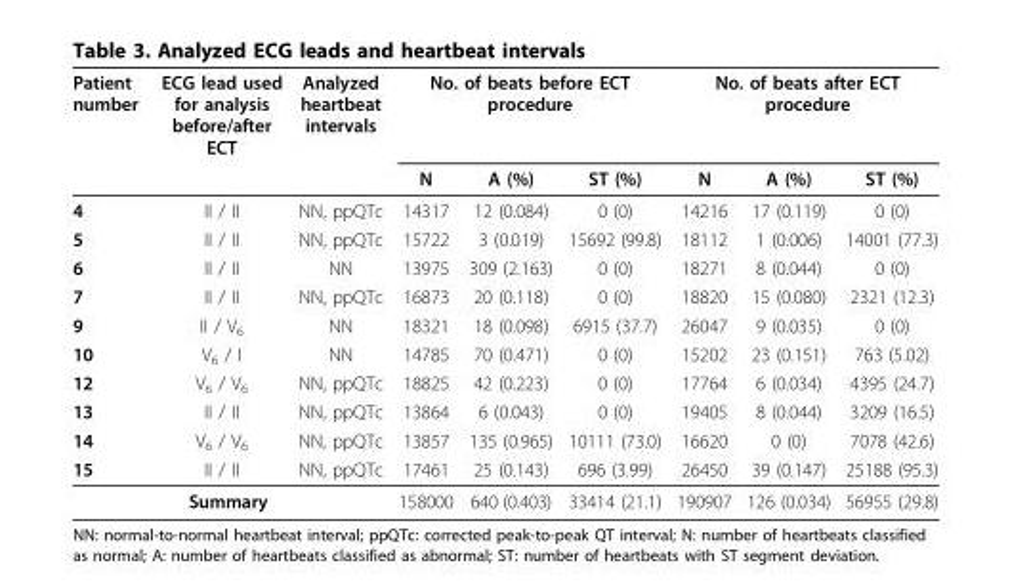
<table><thead><tr><td rowspan="2">Patient number</td><td rowspan="2">ECG lead used for analysis before/after ECT</td><td rowspan="2">Analyzed heartbeat intervals</td><td colspan="3">No. of beats before ECT procedure</td><td colspan="3">No. of beats after ECT procedure</td></tr><tr><td>N</td><td>A (%)</td><td>ST (%)</td><td>N</td><td>A (%)</td><td>ST (%)</td></tr></thead><tbody><tr><td>4</td><td>II / II</td><td>NN, ppQTc</td><td>14317</td><td>12 (0.084)</td><td>0 (0)</td><td>14216</td><td>17 (0.119)</td><td>0 (0)</td></tr><tr><td>5</td><td>II / II</td><td>NN, ppQTc</td><td>15722</td><td>3 (0.019)</td><td>15692 (99.8)</td><td>18112</td><td>1 (0.006)</td><td>14001 (77.3)</td></tr><tr><td>6</td><td>II / II</td><td>NN</td><td>13975</td><td>309 (2.163)</td><td>0 (0)</td><td>18271</td><td>8 (0.044)</td><td>0 (0)</td></tr><tr><td>7</td><td>II / II</td><td>NN, ppQTc</td><td>16873</td><td>20 (0.118)</td><td>0 (0)</td><td>18820</td><td>15 (0.080)</td><td>2321 (12.3)</td></tr><tr><td>9</td><td>II / V<sub>6</sub></td><td>NN</td><td>18321</td><td>18 (0.098)</td><td>6915 (37.7)</td><td>26047</td><td>9 (0.035)</td><td>0 (0)</td></tr><tr><td>10</td><td>V<sub>6</sub> / I</td><td>NN</td><td>14785</td><td>70 (0.471)</td><td>0 (0)</td><td>15202</td><td>23 (0.151)</td><td>763 (5.02)</td></tr><tr><td>12</td><td>V<sub>6</sub> / V<sub>6</sub></td><td>NN, ppQTc</td><td>18825</td><td>42 (0.223)</td><td>0 (0)</td><td>17764</td><td>6 (0.034)</td><td>4395 (24.7)</td></tr><tr><td>13</td><td>II / II</td><td>NN, ppQTc</td><td>13864</td><td>6 (0.043)</td><td>0 (0)</td><td>19405</td><td>8 (0.044)</td><td>3209 (16.5)</td></tr><tr><td>14</td><td>V<sub>6</sub> / V<sub>6</sub></td><td>NN, ppQTc</td><td>13857</td><td>135 (0.965)</td><td>10111 (73.0)</td><td>16620</td><td>0 (0)</td><td>7078 (42.6)</td></tr><tr><td>15</td><td>II / II</td><td>NN, ppQTc</td><td>17461</td><td>25 (0.143)</td><td>696 (3.99)</td><td>26450</td><td>39 (0.147)</td><td>25188 (95.3)</td></tr><tr><td colspan="3">Summary</td><td>158000</td><td>640 (0.403)</td><td>33414 (21.1)</td><td>190907</td><td>126 (0.034)</td><td>56955 (29.8)</td></tr></tbody></table>